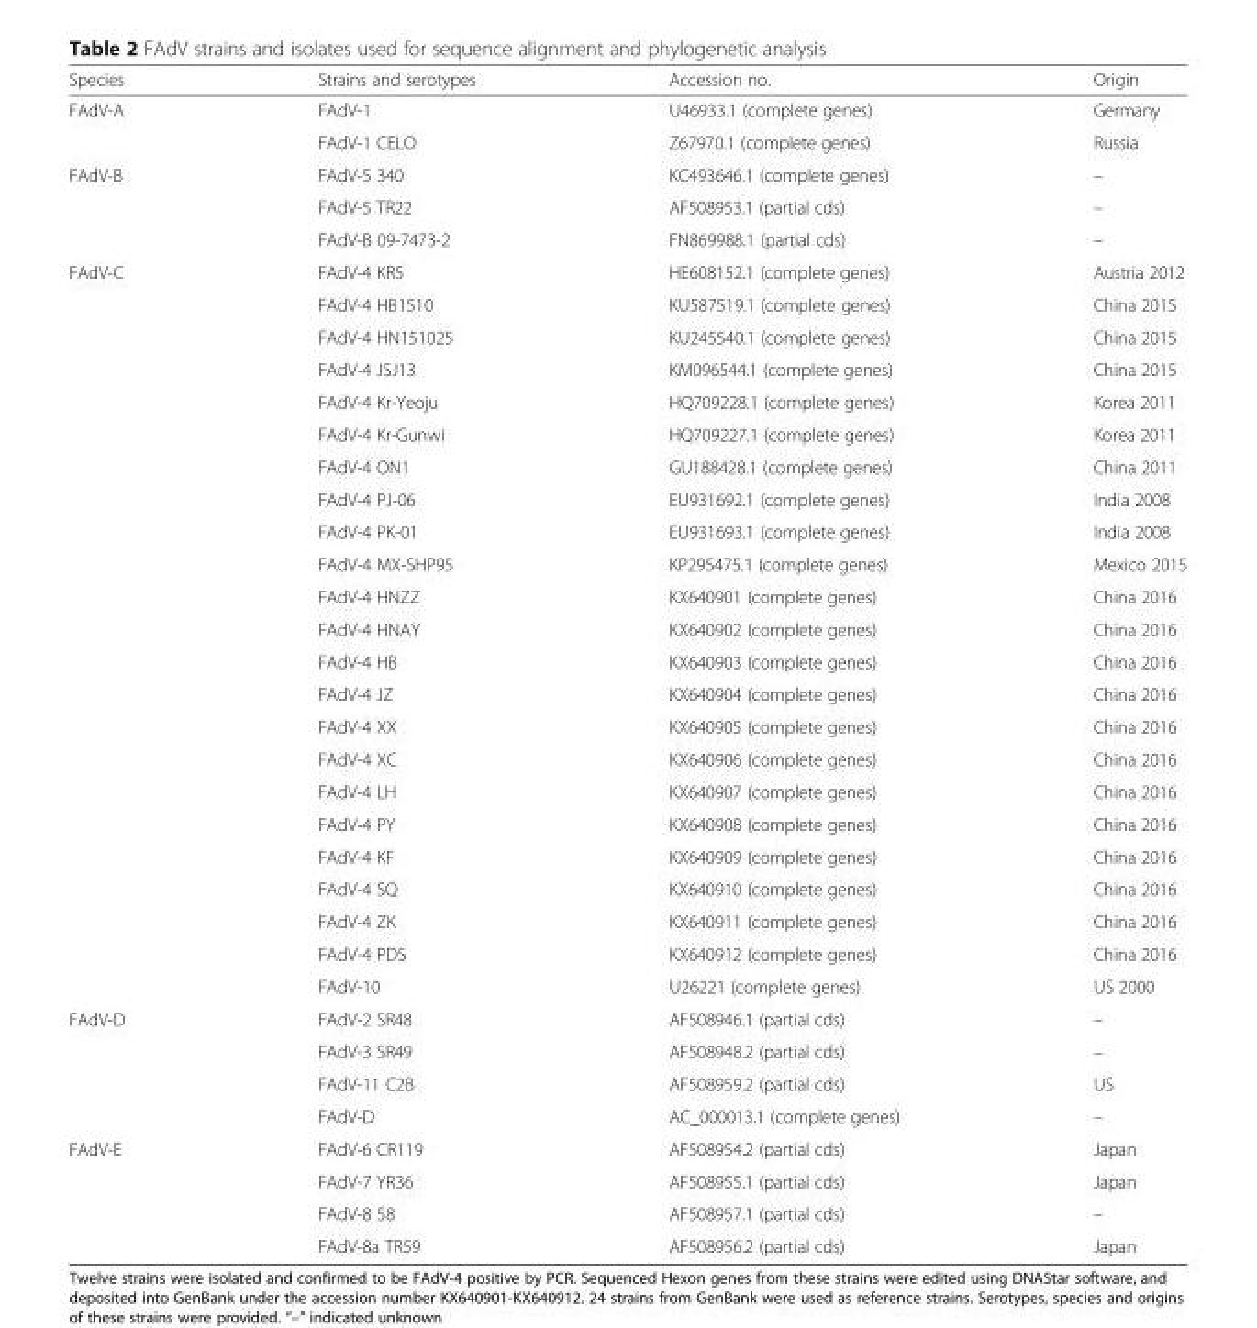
<table><thead><tr><td>Species</td><td>Strains and serotypes</td><td>Accession no.</td><td>Origin</td></tr></thead><tbody><tr><td rowspan="2">FAdV-A</td><td>FAdV-1</td><td>U46933.1 (complete genes)</td><td>Germany</td></tr><tr><td>FAdV-1 CELO</td><td>Z67970.1 (complete genes)</td><td>Russia</td></tr><tr><td rowspan="3">FAdV-B</td><td>FAdV-5 340</td><td>KC493646.1 (complete genes)</td><td>–</td></tr><tr><td>FAdV-5 TR22</td><td>AF508953.1 (partial cds)</td><td>–</td></tr><tr><td>FAdV-B 09-7473-2</td><td>FN869988.1 (partial cds)</td><td>–</td></tr><tr><td rowspan="23">FAdV-C</td><td>FAdV-4 KR5</td><td>HE608152.1 (complete genes)</td><td>Austria 2012</td></tr><tr><td>FAdV-4 HB1510</td><td>KU587519.1 (complete genes)</td><td>China 2015</td></tr><tr><td>FAdV-4 HN151025</td><td>KU245540.1 (complete genes)</td><td>China 2015</td></tr><tr><td>FAdV-4 JSJ13</td><td>KM096544.1 (complete genes)</td><td>China 2015</td></tr><tr><td>FAdV-4 Kr-Yeoju</td><td>HQ709228.1 (complete genes)</td><td>Korea 2011</td></tr><tr><td>FAdV-4 Kr-Gunwi</td><td>HQ709227.1 (complete genes)</td><td>Korea 2011</td></tr><tr><td>FAdV-4 ON1</td><td>GU188428.1 (complete genes)</td><td>China 2011</td></tr><tr><td>FAdV-4 PJ-06</td><td>EU931692.1 (complete genes)</td><td>India 2008</td></tr><tr><td>FAdV-4 PK-01</td><td>EU931693.1 (complete genes)</td><td>India 2008</td></tr><tr><td>FAdV-4 MX-SHP95</td><td>KP295475.1 (complete genes)</td><td>Mexico 2015</td></tr><tr><td>FAdV-4 HNZZ</td><td>KX640901 (complete genes)</td><td>China 2016</td></tr><tr><td>FAdV-4 HNAY</td><td>KX640902 (complete genes)</td><td>China 2016</td></tr><tr><td>FAdV-4 HB</td><td>KX640903 (complete genes)</td><td>China 2016</td></tr><tr><td>FAdV-4 JZ</td><td>KX640904 (complete genes)</td><td>China 2016</td></tr><tr><td>FAdV-4 XX</td><td>KX640905 (complete genes)</td><td>China 2016</td></tr><tr><td>FAdV-4 XC</td><td>KX640906 (complete genes)</td><td>China 2016</td></tr><tr><td>FAdV-4 LH</td><td>KX640907 (complete genes)</td><td>China 2016</td></tr><tr><td>FAdV-4 PY</td><td>KX640908 (complete genes)</td><td>China 2016</td></tr><tr><td>FAdV-4 KF</td><td>KX640909 (complete genes)</td><td>China 2016</td></tr><tr><td>FAdV-4 SQ</td><td>KX640910 (complete genes)</td><td>China 2016</td></tr><tr><td>FAdV-4 ZK</td><td>KX640911 (complete genes)</td><td>China 2016</td></tr><tr><td>FAdV-4 PDS</td><td>KX640912 (complete genes)</td><td>China 2016</td></tr><tr><td>FAdV-10</td><td>U26221 (complete genes)</td><td>US 2000</td></tr><tr><td rowspan="4">FAdV-D</td><td>FAdV-2 SR48</td><td>AF508946.1 (partial cds)</td><td>–</td></tr><tr><td>FAdV-3 SR49</td><td>AF508948.2 (partial cds)</td><td>–</td></tr><tr><td>FAdV-11 C2B</td><td>AF508959.2 (partial cds)</td><td>US</td></tr><tr><td>FAdV-D</td><td>AC_000013.1 (complete genes)</td><td>–</td></tr><tr><td rowspan="4">FAdV-E</td><td>FAdV-6 CR119</td><td>AF508954.2 (partial cds)</td><td>Japan</td></tr><tr><td>FAdV-7 YR36</td><td>AF508955.1 (partial cds)</td><td>Japan</td></tr><tr><td>FAdV-8 58</td><td>AF508957.1 (partial cds)</td><td>–</td></tr><tr><td>FAdV-8a TR59</td><td>AF508956.2 (partial cds)</td><td>Japan</td></tr></tbody></table>